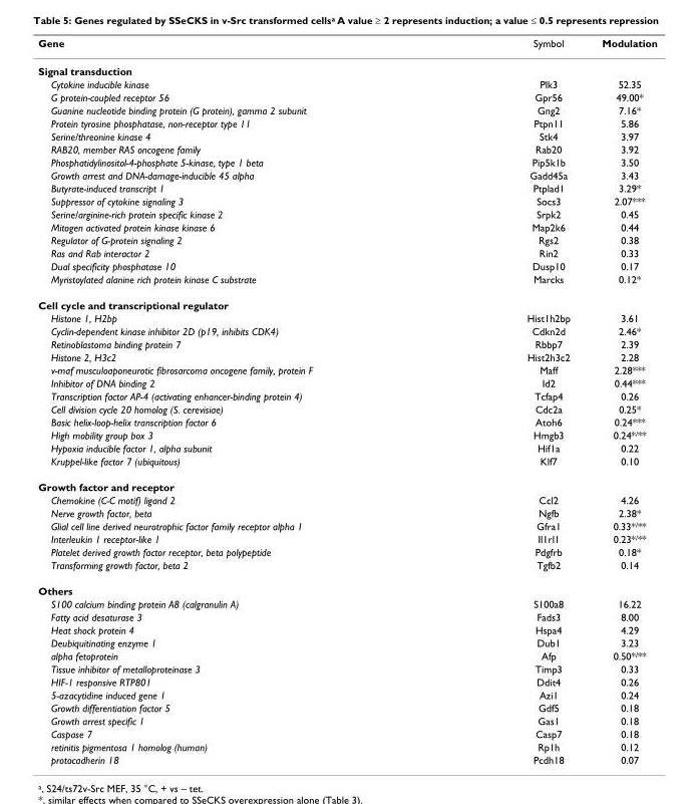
<table><thead><tr><td>Gene</td><td>Symbol</td><td>Modulation</td></tr></thead><tbody><tr><td colspan="3">Signal transduction</td></tr><tr><td>Cytokine inducible kinase</td><td>Plk3</td><td>52.35</td></tr><tr><td>G protein-coupled receptor 56</td><td>Gpr56</td><td>49.00*</td></tr><tr><td>Guanine nucleotide binding protein (G protein), gamma 2 subunit</td><td>Gng2</td><td>7.16*</td></tr><tr><td>Protein tyrosine phosphatase, non-receptor type 11</td><td>Ptpn11</td><td>5.86</td></tr><tr><td>Serine/threonine kinase 4</td><td>Stk4</td><td>3.97</td></tr><tr><td>RAB20, member RAS oncogene family</td><td>Rab20</td><td>3.92</td></tr><tr><td>Phosphatidylinositol-4-phosphate 5-kinase, type 1 beta</td><td>Pip5k1b</td><td>3.50</td></tr><tr><td>Growth arrest and DNA-damage-inducible 45 alpha</td><td>Gadd45a</td><td>3.43</td></tr><tr><td>Butyrate-induced transcript 1</td><td>Ptplad1</td><td>3.29*</td></tr><tr><td>Suppressor of cytokine signaling 3</td><td>Socs3</td><td>2.07***</td></tr><tr><td>Serine/arginine-rich protein specific kinase 2</td><td>Srpk2</td><td>0.45</td></tr><tr><td>Mitogen activated protein kinase kinase 6</td><td>Map2k6</td><td>0.44</td></tr><tr><td>Regulator of G-protein signaling 2</td><td>Rgs2</td><td>0.38</td></tr><tr><td>Ras and Rab interactor 2</td><td>Rin2</td><td>0.33</td></tr><tr><td>Dual specificity phosphatase 10</td><td>Dusp10</td><td>0.17</td></tr><tr><td>Myristoylated alanine rich protein kinase C substrate</td><td>Marcks</td><td>0.12*</td></tr><tr><td colspan="3">Cell cycle and transcriptional regulator</td></tr><tr><td>Histone 1, H2bp</td><td>Hist1h2bp</td><td>3.61</td></tr><tr><td>Cyclin-dependent kinase inhibitor 2D (p19, inhibits CDK4)</td><td>Cdkn2d</td><td>2.46*</td></tr><tr><td>Retinoblastoma binding protein 7</td><td>Rbbp7</td><td>2.39</td></tr><tr><td>Histone 2, H3c2</td><td>Hist2h3c2</td><td>2.28</td></tr><tr><td>v-maf musculoaponeurotic fibrosarcoma oncogene family, protein F</td><td>Maff</td><td>2.28***</td></tr><tr><td>Inhibitor of DNA binding 2</td><td>Id2</td><td>0.44***</td></tr><tr><td>Transcription factor AP-4 (activating enhancer-binding protein 4)</td><td>Tcfap4</td><td>0.26</td></tr><tr><td>Cell division cycle 20 homolog (S. cerevisiae)</td><td>Cdc2a</td><td>0.25*</td></tr><tr><td>Basic helix-loop-helix transcription factor 6</td><td>Atoh6</td><td>0.24***</td></tr><tr><td>High mobility group box 3</td><td>Hmgb3</td><td>0.24*/**</td></tr><tr><td>Hypoxia inducible factor 1, alpha subunit</td><td>Hif1a</td><td>0.22</td></tr><tr><td>Kruppel-like factor 7 (ubiquitous)</td><td>Klf7</td><td>0.10</td></tr><tr><td colspan="3">Growth factor and receptor</td></tr><tr><td>Chemokine (C-C motif) ligand 2</td><td>Ccl2</td><td>4.26</td></tr><tr><td>Nerve growth factor, beta</td><td>Ngfb</td><td>2.38*</td></tr><tr><td>Glial cell line derived neurotrophic factor family receptor alpha 1</td><td>Gfra1</td><td>0.33*/**</td></tr><tr><td>Interleukin 1 receptor-like 1</td><td>Il1rl1</td><td>0.23*/**</td></tr><tr><td>Platelet derived growth factor receptor, beta polypeptide</td><td>Pdgfrb</td><td>0.18*</td></tr><tr><td>Transforming growth factor, beta 2</td><td>Tgfb2</td><td>0.14</td></tr><tr><td colspan="3">Others</td></tr><tr><td>S100 calcium binding protein A8 (calgranulin A)</td><td>S100a8</td><td>16.22</td></tr><tr><td>Fatty acid desaturase 3</td><td>Fads3</td><td>8.00</td></tr><tr><td>Heat shock protein 4</td><td>Hspa4</td><td>4.29</td></tr><tr><td>Deubiquitinating enzyme 1</td><td>Dub1</td><td>3.23</td></tr><tr><td>alpha fetoprotein</td><td>Afp</td><td>0.50*/**</td></tr><tr><td>Tissue inhibitor of metalloproteinase 3</td><td>Timp3</td><td>0.33</td></tr><tr><td>HIF-1 responsive RTP801</td><td>Ddit4</td><td>0.26</td></tr><tr><td>5-azacytidine induced gene 1</td><td>Azi1</td><td>0.24</td></tr><tr><td>Growth differentiation factor 5</td><td>Gdf5</td><td>0.18</td></tr><tr><td>Growth arrest specific 1</td><td>Gas1</td><td>0.18</td></tr><tr><td>Caspase 7</td><td>Casp7</td><td>0.18</td></tr><tr><td>retinitis pigmentosa 1 homolog (human)</td><td>Rp1h</td><td>0.12</td></tr><tr><td>protocadherin 18</td><td>Pcdh18</td><td>0.07</td></tr></tbody></table>